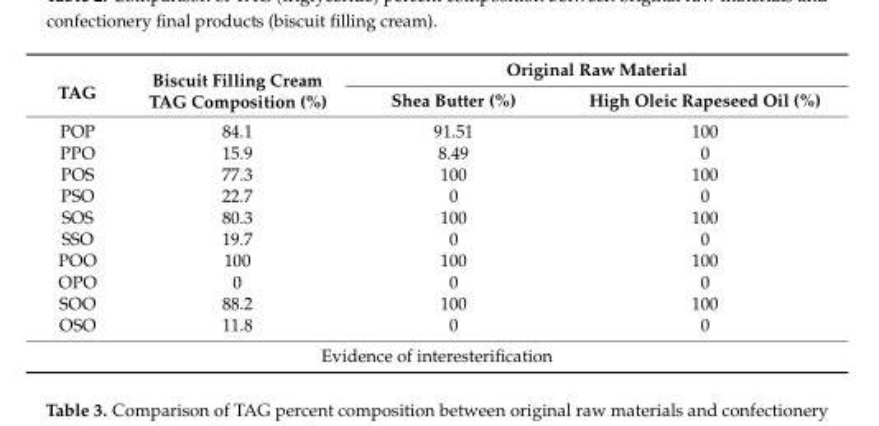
<table><thead><tr><td rowspan="2">TAG</td><td rowspan="2">Biscuit Filling Cream TAG Composition (%)</td><td colspan="2">Original Raw Material</td></tr><tr><td>Shea Butter (%)</td><td>High Oleic Rapeseed Oil (%)</td></tr></thead><tbody><tr><td>POP</td><td>84.1</td><td>91.51</td><td>100</td></tr><tr><td>PPO</td><td>15.9</td><td>8.49</td><td>0</td></tr><tr><td>POS</td><td>77.3</td><td>100</td><td>100</td></tr><tr><td>PSO</td><td>22.7</td><td>0</td><td>0</td></tr><tr><td>SOS</td><td>80.3</td><td>100</td><td>100</td></tr><tr><td>SSO</td><td>19.7</td><td>0</td><td>0</td></tr><tr><td>POO</td><td>100</td><td>100</td><td>100</td></tr><tr><td>OPO</td><td>0</td><td>0</td><td>0</td></tr><tr><td>SOO</td><td>88.2</td><td>100</td><td>100</td></tr><tr><td>OSO</td><td>11.8</td><td>0</td><td>0</td></tr><tr><td colspan="4">Evidence of interesterification</td></tr></tbody></table>